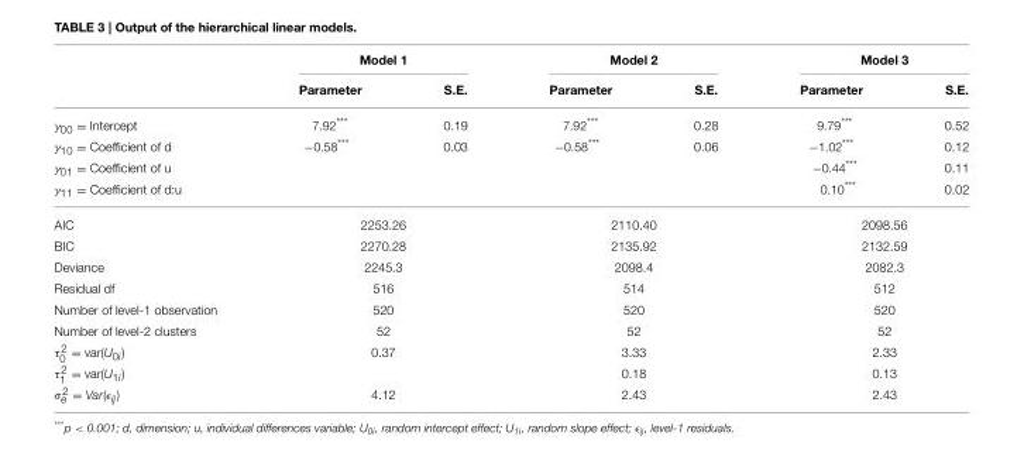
<table><thead><tr><td rowspan="2"></td><td colspan="2">Model 1</td><td colspan="2">Model 2</td><td colspan="2">Model 3</td></tr><tr><td>Parameter</td><td>S.E.</td><td>Parameter</td><td>S.E.</td><td>Parameter</td><td>S.E.</td></tr></thead><tbody><tr><td>γ<sub>00</sub> = Intercept</td><td>7.92***</td><td>0.19</td><td>7.92***</td><td>0.28</td><td>9.79***</td><td>0.52</td></tr><tr><td>γ<sub>10</sub> = Coefficient of d</td><td>−0.58***</td><td>0.03</td><td>−0.58***</td><td>0.06</td><td>−1.02***</td><td>0.12</td></tr><tr><td>γ<sub>01</sub> = Coefficient of u</td><td></td><td></td><td></td><td></td><td>−0.44***</td><td>0.11</td></tr><tr><td>γ<sub>11</sub> = Coefficient of d:u</td><td></td><td></td><td></td><td></td><td>0.10***</td><td>0.02</td></tr><tr><td>AIC</td><td colspan="2">2253.26</td><td colspan="2">2110.40</td><td colspan="2">2098.56</td></tr><tr><td>BIC</td><td colspan="2">2270.28</td><td colspan="2">2135.92</td><td colspan="2">2132.59</td></tr><tr><td>Deviance</td><td colspan="2">2245.3</td><td colspan="2">2098.4</td><td colspan="2">2082.3</td></tr><tr><td>Residual df</td><td colspan="2">516</td><td colspan="2">514</td><td colspan="2">512</td></tr><tr><td>Number of level-1 observation</td><td colspan="2">520</td><td colspan="2">520</td><td colspan="2">520</td></tr><tr><td>Number of level-2 clusters</td><td colspan="2">52</td><td colspan="2">52</td><td colspan="2">52</td></tr><tr><td>τ<sup>2</sup> <sub>0</sub> = var(U<sub>0i</sub>)</td><td colspan="2">0.37</td><td colspan="2">3.33</td><td colspan="2">2.33</td></tr><tr><td>τ<sup>2</sup> <sub>1</sub> = var(U<sub>1i</sub>)</td><td colspan="2"></td><td colspan="2">0.18</td><td colspan="2">0.13</td></tr><tr><td>σ2e = Var(ǫij)</td><td colspan="2">4.12</td><td colspan="2">2.43</td><td colspan="2">2.43</td></tr></tbody></table>